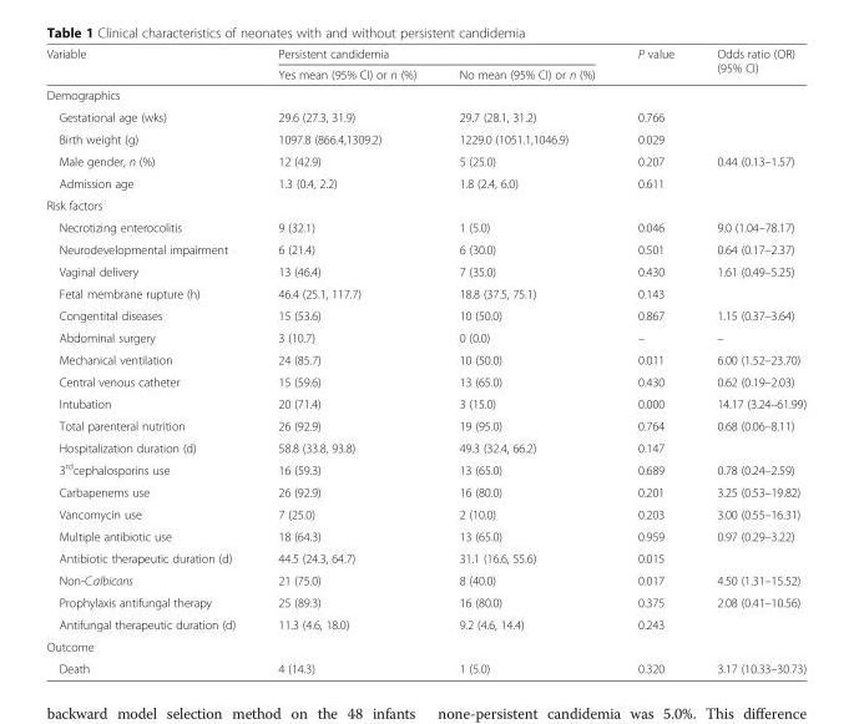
<table><thead><tr><td rowspan="2">Variable</td><td colspan="2">Persistent candidemia</td><td rowspan="2">P value</td><td rowspan="2">Odds ratio (OR) (95% CI)</td></tr><tr><td>Yes mean (95% CI) or n (%)</td><td>No mean (95% CI) or n (%)</td></tr></thead><tbody><tr><td colspan="5">Demographics</td></tr><tr><td>Gestational age (wks)</td><td>29.6 (27.3, 31.9)</td><td>29.7 (28.1, 31.2)</td><td>0.766</td><td></td></tr><tr><td>Birth weight (g)</td><td>1097.8 (866.4,1309.2)</td><td>1229.0 (1051.1,1046.9)</td><td>0.029</td><td></td></tr><tr><td>Male gender, n (%)</td><td>12 (42.9)</td><td>5 (25.0)</td><td>0.207</td><td>0.44 (0.13–1.57)</td></tr><tr><td>Admission age</td><td>1.3 (0.4, 2.2)</td><td>1.8 (2.4, 6.0)</td><td>0.611</td><td></td></tr><tr><td colspan="5">Risk factors</td></tr><tr><td>Necrotizing enterocolitis</td><td>9 (32.1)</td><td>1 (5.0)</td><td>0.046</td><td>9.0 (1.04–78.17)</td></tr><tr><td>Neurodevelopmental impairment</td><td>6 (21.4)</td><td>6 (30.0)</td><td>0.501</td><td>0.64 (0.17–2.37)</td></tr><tr><td>Vaginal delivery</td><td>13 (46.4)</td><td>7 (35.0)</td><td>0.430</td><td>1.61 (0.49–5.25)</td></tr><tr><td>Fetal membrane rupture (h)</td><td>46.4 (25.1, 117.7)</td><td>18.8 (37.5, 75.1)</td><td>0.143</td><td></td></tr><tr><td>Congentital diseases</td><td>15 (53.6)</td><td>10 (50.0)</td><td>0.867</td><td>1.15 (0.37–3.64)</td></tr><tr><td>Abdominal surgery</td><td>3 (10.7)</td><td>0 (0.0)</td><td>–</td><td>–</td></tr><tr><td>Mechanical ventilation</td><td>24 (85.7)</td><td>10 (50.0)</td><td>0.011</td><td>6.00 (1.52–23.70)</td></tr><tr><td>Central venous catheter</td><td>15 (59.6)</td><td>13 (65.0)</td><td>0.430</td><td>0.62 (0.19–2.03)</td></tr><tr><td>Intubation</td><td>20 (71.4)</td><td>3 (15.0)</td><td>0.000</td><td>14.17 (3.24–61.99)</td></tr><tr><td>Total parenteral nutrition</td><td>26 (92.9)</td><td>19 (95.0)</td><td>0.764</td><td>0.68 (0.06–8.11)</td></tr><tr><td>Hospitalization duration (d)</td><td>58.8 (33.8, 93.8)</td><td>49.3 (32.4, 66.2)</td><td>0.147</td><td></td></tr><tr><td>3<sup>rd</sup>cephalosporins use</td><td>16 (59.3)</td><td>13 (65.0)</td><td>0.689</td><td>0.78 (0.24–2.59)</td></tr><tr><td>Carbapenems use</td><td>26 (92.9)</td><td>16 (80.0)</td><td>0.201</td><td>3.25 (0.53–19.82)</td></tr><tr><td>Vancomycin use</td><td>7 (25.0)</td><td>2 (10.0)</td><td>0.203</td><td>3.00 (0.55–16.31)</td></tr><tr><td>Multiple antibiotic use</td><td>18 (64.3)</td><td>13 (65.0)</td><td>0.959</td><td>0.97 (0.29–3.22)</td></tr><tr><td>Antibiotic therapeutic duration (d)</td><td>44.5 (24.3, 64.7)</td><td>31.1 (16.6, 55.6)</td><td>0.015</td><td></td></tr><tr><td>Non-C.albicans</td><td>21 (75.0)</td><td>8 (40.0)</td><td>0.017</td><td>4.50 (1.31–15.52)</td></tr><tr><td>Prophylaxis antifungal therapy</td><td>25 (89.3)</td><td>16 (80.0)</td><td>0.375</td><td>2.08 (0.41–10.56)</td></tr><tr><td>Antifungal therapeutic duration (d)</td><td>11.3 (4.6, 18.0)</td><td>9.2 (4.6, 14.4)</td><td>0.243</td><td></td></tr><tr><td colspan="5">Outcome</td></tr><tr><td>Death</td><td>4 (14.3)</td><td>1 (5.0)</td><td>0.320</td><td>3.17 (10.33–30.73)</td></tr></tbody></table>